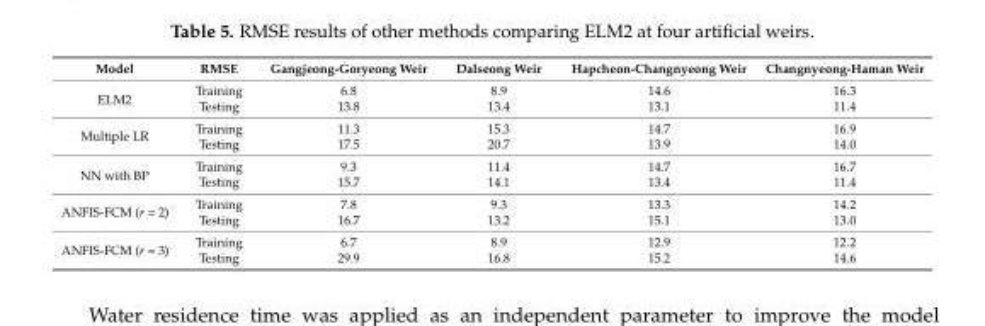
<table><thead><tr><td>Model</td><td>RMSE</td><td>Gangjeong-Goryeong Weir</td><td>Dalseong Weir</td><td>Hapcheon-Changnyeong Weir</td><td>Changnyeong-Haman Weir</td></tr></thead><tbody><tr><td rowspan="2">ELM2</td><td>Training</td><td>6.8</td><td>8.9</td><td>14.6</td><td>16.3</td></tr><tr><td>Testing</td><td>13.8</td><td>13.4</td><td>13.1</td><td>11.4</td></tr><tr><td rowspan="2">Multiple LR</td><td>Training</td><td>11.3</td><td>15.3</td><td>14.7</td><td>16.9</td></tr><tr><td>Testing</td><td>17.5</td><td>20.7</td><td>13.9</td><td>14.0</td></tr><tr><td rowspan="2">NN with BP</td><td>Training</td><td>9.3</td><td>11.4</td><td>14.7</td><td>16.7</td></tr><tr><td>Testing</td><td>15.7</td><td>14.1</td><td>13.4</td><td>11.4</td></tr><tr><td rowspan="2">ANFIS-FCM (r = 2)</td><td>Training</td><td>7.8</td><td>9.3</td><td>13.3</td><td>14.2</td></tr><tr><td>Testing</td><td>16.7</td><td>13.2</td><td>15.1</td><td>13.0</td></tr><tr><td rowspan="2">ANFIS-FCM (r = 3)</td><td>Training</td><td>6.7</td><td>8.9</td><td>12.9</td><td>12.2</td></tr><tr><td>Testing</td><td>29.9</td><td>16.8</td><td>15.2</td><td>14.6</td></tr></tbody></table>